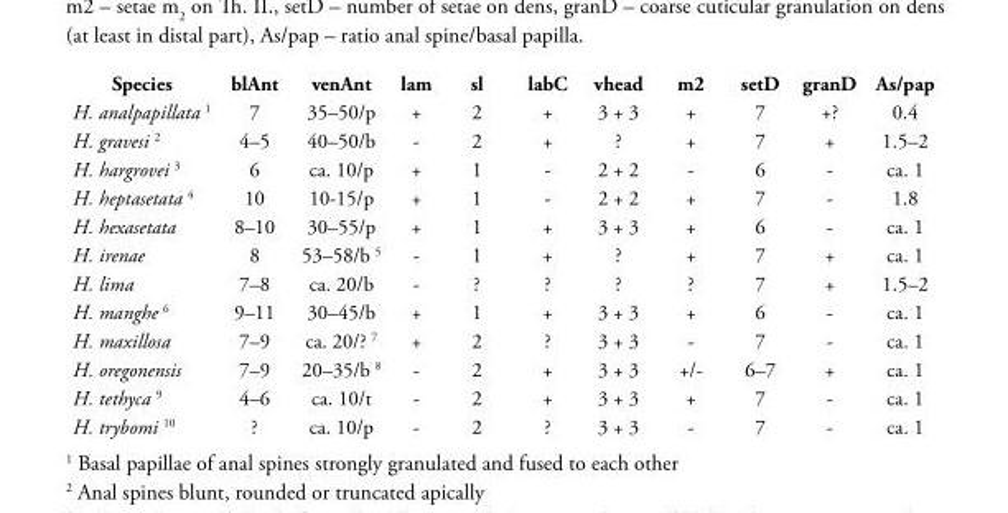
<table><tbody><tr><td>Species</td><td>blAnt</td><td>venAnt</td><td>lam</td><td>sl</td><td>labC</td><td>vhead</td><td>m2</td><td>setD</td><td>granD</td><td>As/pap</td></tr><tr><td>H. analpapillata <sup>1</sup></td><td>7</td><td>35–50/p</td><td>+</td><td>2</td><td>+</td><td>3 + 3</td><td>+</td><td>7</td><td>+?</td><td>0.4</td></tr><tr><td>H. gravesi <sup>2</sup></td><td>4–5</td><td>40–50/b</td><td>-</td><td>2</td><td>+</td><td>?</td><td>+</td><td>7</td><td>+</td><td>1.5–2</td></tr><tr><td>H. hargrovei <sup>3</sup></td><td>6</td><td>ca. 10/p</td><td>+</td><td>1</td><td>-</td><td>2 + 2</td><td>-</td><td>6</td><td>-</td><td>ca. 1</td></tr><tr><td>H. heptasetata <sup>4</sup></td><td>10</td><td>10-15/p</td><td>+</td><td>1</td><td>-</td><td>2 + 2</td><td>+</td><td>7</td><td>-</td><td>1.8</td></tr><tr><td>H. hexasetata</td><td>8–10</td><td>30–55/p</td><td>+</td><td>1</td><td>+</td><td>3 + 3</td><td>+</td><td>6</td><td>-</td><td>ca. 1</td></tr><tr><td>H. irenae</td><td>8</td><td>53–58/b <sup>5</sup></td><td>-</td><td>1</td><td>+</td><td>?</td><td>+</td><td>7</td><td>+</td><td>ca. 1</td></tr><tr><td>H. lima</td><td>7–8</td><td>ca. 20/b</td><td>-</td><td>?</td><td>?</td><td>?</td><td>?</td><td>7</td><td>+</td><td>1.5–2</td></tr><tr><td>H. manghe <sup>6</sup></td><td>9–11</td><td>30–45/b</td><td>+</td><td>1</td><td>+</td><td>3 + 3</td><td>+</td><td>6</td><td>-</td><td>ca. 1</td></tr><tr><td>H. maxillosa</td><td>7–9</td><td>ca. 20/? <sup>7</sup></td><td>+</td><td>2</td><td>?</td><td>3 + 3</td><td>-</td><td>7</td><td>-</td><td>ca. 1</td></tr><tr><td>H. oregonensis</td><td>7–9</td><td>20–35/b <sup>8</sup></td><td>-</td><td>2</td><td>+</td><td>3 + 3</td><td>+/-</td><td>6–7</td><td>+</td><td>ca. 1</td></tr><tr><td>H. tethyca <sup>9</sup></td><td>4–6</td><td>ca. 10/t</td><td>-</td><td>2</td><td>+</td><td>3 + 3</td><td>+</td><td>7</td><td>-</td><td>ca. 1</td></tr><tr><td>H. trybomi <sup>10</sup></td><td>?</td><td>ca. 10/p</td><td>-</td><td>2</td><td>?</td><td>3 + 3</td><td>-</td><td>7</td><td>-</td><td>ca. 1</td></tr></tbody></table>